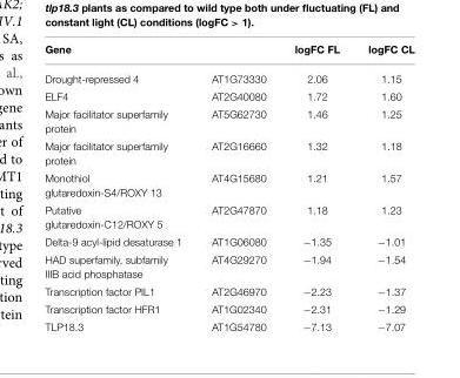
<table><thead><tr><td>Gene</td><td></td><td>logFC FL</td><td>logFC CL</td></tr></thead><tbody><tr><td>Drought-repressed 4</td><td>AT1G73330</td><td>2.06</td><td>1.15</td></tr><tr><td>ELF4</td><td>AT2G40080</td><td>1.72</td><td>1.60</td></tr><tr><td>Major facilitator superfamily protein</td><td>AT5G62730</td><td>1.46</td><td>1.25</td></tr><tr><td>Major facilitator superfamily protein</td><td>AT2G16660</td><td>1.32</td><td>1.18</td></tr><tr><td>Monothiol glutaredoxin-S4/ROXY 13</td><td>AT4G15680</td><td>1.21</td><td>1.57</td></tr><tr><td>Putative glutaredoxin-C12/ROXY 5</td><td>AT2G47870</td><td>1.18</td><td>1.23</td></tr><tr><td>Delta-9 acyl-lipid desaturase 1</td><td>AT1G06080</td><td>−1.35</td><td>−1.01</td></tr><tr><td>HAD superfamily, subfamily IIIB acid phosphatase</td><td>AT4G29270</td><td>−1.94</td><td>−1.54</td></tr><tr><td>Transcription factor PIL1</td><td>AT2G46970</td><td>−2.23</td><td>−1.37</td></tr><tr><td>Transcription factor HFR1</td><td>AT1G02340</td><td>−2.31</td><td>−1.29</td></tr><tr><td>TLP18.3</td><td>AT1G54780</td><td>−7.13</td><td>−7.07</td></tr></tbody></table>